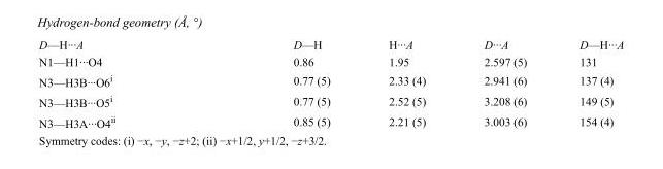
<table><tbody><tr><td>D—H···A</td><td>D—H</td><td>H···A</td><td>D···A</td><td>D—H···A</td></tr><tr><td>N1—H1···O4</td><td>0.86</td><td>1.95</td><td>2.597 (5)</td><td>131</td></tr><tr><td>N3—H3B···O6<sup>i</sup></td><td>0.77 (5)</td><td>2.33 (4)</td><td>2.941 (6)</td><td>137 (4)</td></tr><tr><td>N3—H3B···O5<sup>i</sup></td><td>0.77 (5)</td><td>2.52 (5)</td><td>3.208 (6)</td><td>149 (5)</td></tr><tr><td>N3—H3A···O4<sup>ii</sup></td><td>0.85 (5)</td><td>2.21 (5)</td><td>3.003 (6)</td><td>154 (4)</td></tr></tbody></table>